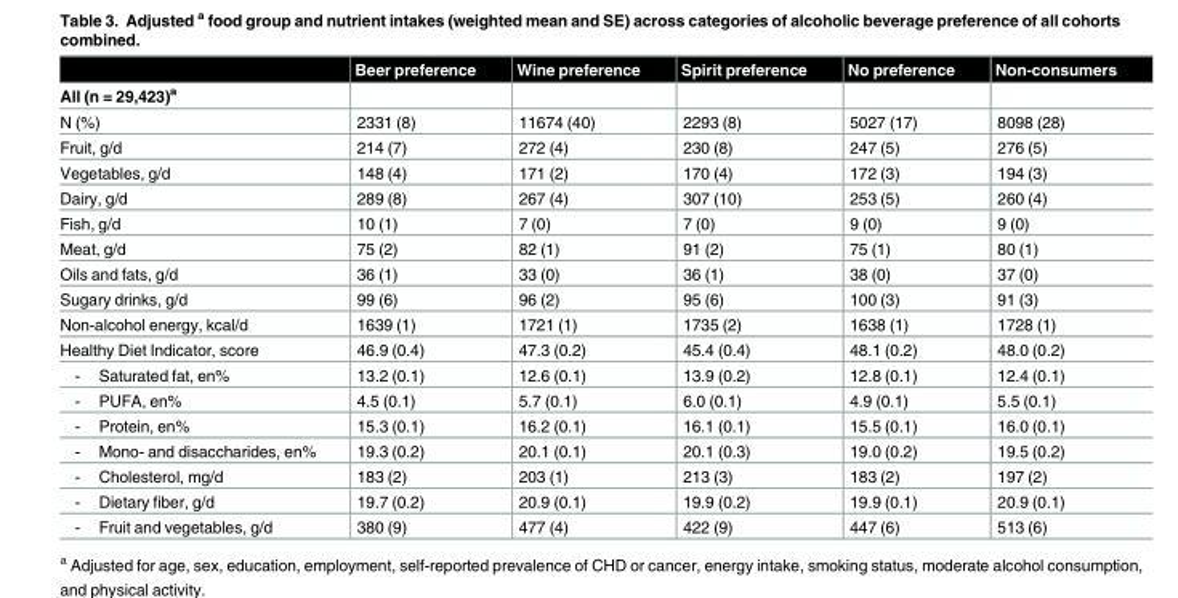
<table><thead><tr><td rowspan="2">All (n = 29,423)<sup>a</sup></td><td rowspan="2">Beer preference</td><td rowspan="2">Wine preference</td><td rowspan="2">Spirit preference</td><td rowspan="2">No preference</td><td rowspan="2">Non-consumers</td></tr><tr></tr></thead><tbody><tr><td>N (%)</td><td>2331 (8)</td><td>11674 (40)</td><td>2293 (8)</td><td>5027 (17)</td><td>8098 (28)</td></tr><tr><td>Fruit, g/d</td><td>214 (7)</td><td>272 (4)</td><td>230 (8)</td><td>247 (5)</td><td>276 (5)</td></tr><tr><td>Vegetables, g/d</td><td>148 (4)</td><td>171 (2)</td><td>170 (4)</td><td>172 (3)</td><td>194 (3)</td></tr><tr><td>Dairy, g/d</td><td>289 (8)</td><td>267 (4)</td><td>307 (10)</td><td>253 (5)</td><td>260 (4)</td></tr><tr><td>Fish, g/d</td><td>10 (1)</td><td>7 (0)</td><td>7 (0)</td><td>9 (0)</td><td>9 (0)</td></tr><tr><td>Meat, g/d</td><td>75 (2)</td><td>82 (1)</td><td>91 (2)</td><td>75 (1)</td><td>80 (1)</td></tr><tr><td>Oils and fats, g/d</td><td>36 (1)</td><td>33 (0)</td><td>36 (1)</td><td>38 (0)</td><td>37 (0)</td></tr><tr><td>Sugary drinks, g/d</td><td>99 (6)</td><td>96 (2)</td><td>95 (6)</td><td>100 (3)</td><td>91 (3)</td></tr><tr><td>Non-alcohol energy, kcal/d</td><td>1639 (1)</td><td>1721 (1)</td><td>1735 (2)</td><td>1638 (1)</td><td>1728 (1)</td></tr><tr><td>Healthy Diet Indicator, score</td><td>46.9 (0.4)</td><td>47.3 (0.2)</td><td>45.4 (0.4)</td><td>48.1 (0.2)</td><td>48.0 (0.2)</td></tr><tr><td>- Saturated fat, en%</td><td>13.2 (0.1)</td><td>12.6 (0.1)</td><td>13.9 (0.2)</td><td>12.8 (0.1)</td><td>12.4 (0.1)</td></tr><tr><td>- PUFA, en%</td><td>4.5 (0.1)</td><td>5.7 (0.1)</td><td>6.0 (0.1)</td><td>4.9 (0.1)</td><td>5.5 (0.1)</td></tr><tr><td>- Protein, en%</td><td>15.3 (0.1)</td><td>16.2 (0.1)</td><td>16.1 (0.1)</td><td>15.5 (0.1)</td><td>16.0 (0.1)</td></tr><tr><td>- Mono- and disaccharides, en%</td><td>19.3 (0.2)</td><td>20.1 (0.1)</td><td>20.1 (0.3)</td><td>19.0 (0.2)</td><td>19.5 (0.2)</td></tr><tr><td>- Cholesterol, mg/d</td><td>183 (2)</td><td>203 (1)</td><td>213 (3)</td><td>183 (2)</td><td>197 (2)</td></tr><tr><td>- Dietary fiber, g/d</td><td>19.7 (0.2)</td><td>20.9 (0.1)</td><td>19.9 (0.2)</td><td>19.9 (0.1)</td><td>20.9 (0.1)</td></tr><tr><td>- Fruit and vegetables, g/d</td><td>380 (9)</td><td>477 (4)</td><td>422 (9)</td><td>447 (6)</td><td>513 (6)</td></tr></tbody></table>